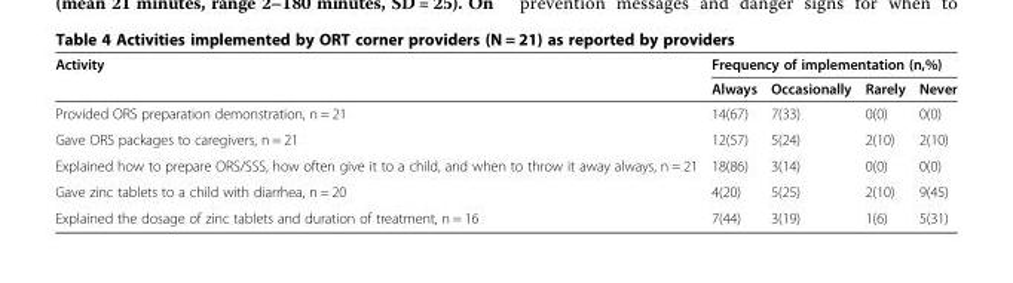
<table><thead><tr><td rowspan="2">Activity</td><td colspan="4">Frequency of implementation (n,%)</td></tr><tr><td>Always</td><td>Occasionally</td><td>Rarely</td><td>Never</td></tr></thead><tbody><tr><td>Provided ORS preparation demonstration, n = 21</td><td>14(67)</td><td>7(33)</td><td>0(0)</td><td>0(0)</td></tr><tr><td>Gave ORS packages to caregivers, n = 21</td><td>12(57)</td><td>5(24)</td><td>2(10)</td><td>2(10)</td></tr><tr><td>Explained how to prepare ORS/SSS, how often give it to a child, and when to throw it away always, n = 21</td><td>18(86)</td><td>3(14)</td><td>0(0)</td><td>0(0)</td></tr><tr><td>Gave zinc tablets to a child with diarrhea, n = 20</td><td>4(20)</td><td>5(25)</td><td>2(10)</td><td>9(45)</td></tr><tr><td>Explained the dosage of zinc tablets and duration of treatment, n = 16</td><td>7(44)</td><td>3(19)</td><td>1(6)</td><td>5(31)</td></tr></tbody></table>